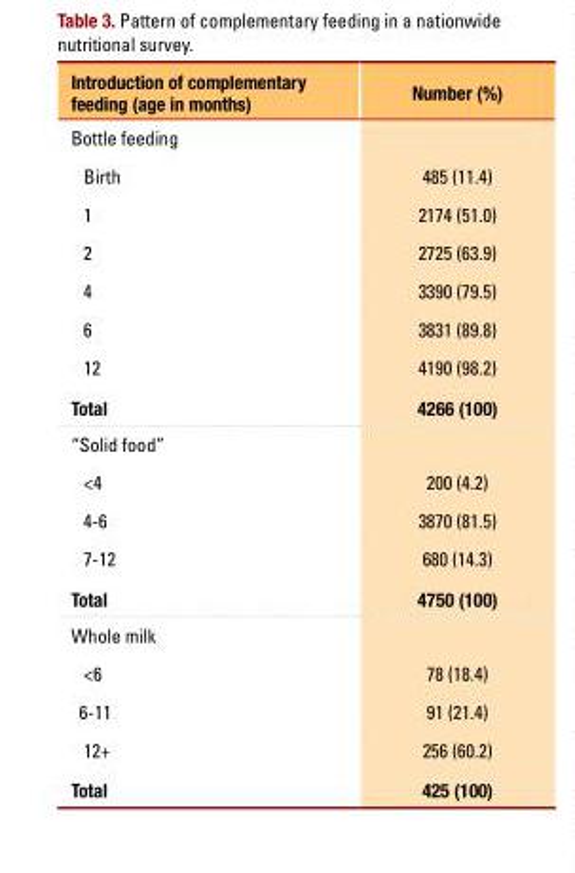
<table><thead><tr><td>Introduction of complementary feeding (age in months)</td><td>Number (%)</td></tr></thead><tbody><tr><td colspan="2">Bottle feeding</td></tr><tr><td>Birth</td><td>485 (11.4)</td></tr><tr><td>1</td><td>2174 (51.0)</td></tr><tr><td>2</td><td>2725 (63.9)</td></tr><tr><td>4</td><td>3390 (79.5)</td></tr><tr><td>6</td><td>3831 (89.8)</td></tr><tr><td>12</td><td>4190 (98.2)</td></tr><tr><td>Total</td><td>4266 (100)</td></tr><tr><td colspan="2">“Solid food”</td></tr><tr><td>&lt;4</td><td>200 (4.2)</td></tr><tr><td>4-6</td><td>3870 (81.5)</td></tr><tr><td>7-12</td><td>680 (14.3)</td></tr><tr><td>Total</td><td>4750 (100)</td></tr><tr><td colspan="2">Whole milk</td></tr><tr><td>&lt;6</td><td>78 (18.4)</td></tr><tr><td>6-11</td><td>91 (21.4)</td></tr><tr><td>12+</td><td>256 (60.2)</td></tr><tr><td>Total</td><td>425 (100)</td></tr></tbody></table>